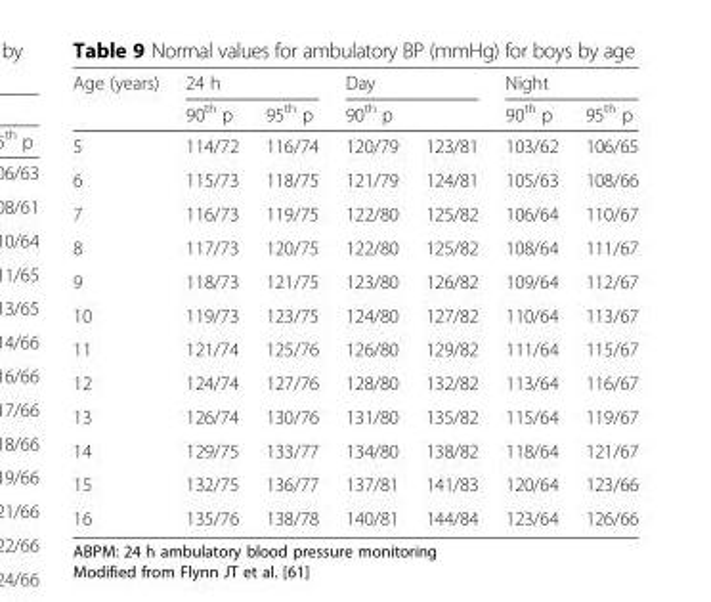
<table><thead><tr><td rowspan="2">Age (years)</td><td colspan="2">24 h</td><td colspan="2">Day</td><td colspan="2">Night</td></tr><tr><td>90<sup>th</sup> p</td><td>95<sup>th</sup> p</td><td>90<sup>th</sup> p</td><td></td><td>90<sup>th</sup> p</td><td>95<sup>th</sup> p</td></tr></thead><tbody><tr><td>5</td><td>114/72</td><td>116/74</td><td>120/79</td><td>123/81</td><td>103/62</td><td>106/65</td></tr><tr><td>6</td><td>115/73</td><td>118/75</td><td>121/79</td><td>124/81</td><td>105/63</td><td>108/66</td></tr><tr><td>7</td><td>116/73</td><td>119/75</td><td>122/80</td><td>125/82</td><td>106/64</td><td>110/67</td></tr><tr><td>8</td><td>117/73</td><td>120/75</td><td>122/80</td><td>125/82</td><td>108/64</td><td>111/67</td></tr><tr><td>9</td><td>118/73</td><td>121/75</td><td>123/80</td><td>126/82</td><td>109/64</td><td>112/67</td></tr><tr><td>10</td><td>119/73</td><td>123/75</td><td>124/80</td><td>127/82</td><td>110/64</td><td>113/67</td></tr><tr><td>11</td><td>121/74</td><td>125/76</td><td>126/80</td><td>129/82</td><td>111/64</td><td>115/67</td></tr><tr><td>12</td><td>124/74</td><td>127/76</td><td>128/80</td><td>132/82</td><td>113/64</td><td>116/67</td></tr><tr><td>13</td><td>126/74</td><td>130/76</td><td>131/80</td><td>135/82</td><td>115/64</td><td>119/67</td></tr><tr><td>14</td><td>129/75</td><td>133/77</td><td>134/80</td><td>138/82</td><td>118/64</td><td>121/67</td></tr><tr><td>15</td><td>132/75</td><td>136/77</td><td>137/81</td><td>141/83</td><td>120/64</td><td>123/66</td></tr><tr><td>16</td><td>135/76</td><td>138/78</td><td>140/81</td><td>144/84</td><td>123/64</td><td>126/66</td></tr></tbody></table>